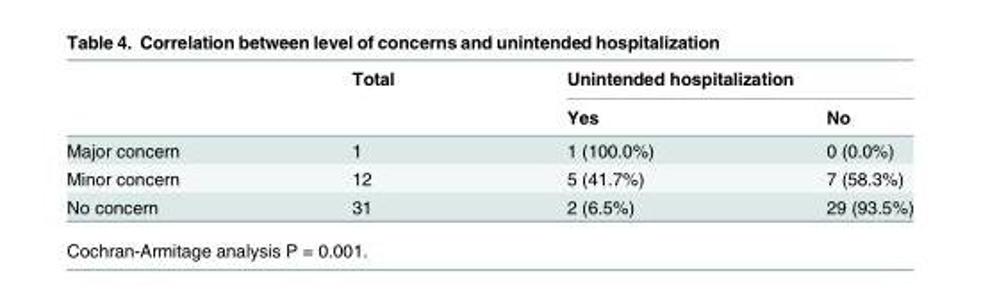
<table><thead><tr><td rowspan="2"></td><td rowspan="2">Total</td><td colspan="2">Unintended hospitalization</td></tr><tr><td>Yes</td><td>No</td></tr></thead><tbody><tr><td>Major concern</td><td>1</td><td>1 (100.0%)</td><td>0 (0.0%)</td></tr><tr><td>Minor concern</td><td>12</td><td>5 (41.7%)</td><td>7 (58.3%)</td></tr><tr><td>No concern</td><td>31</td><td>2 (6.5%)</td><td>29 (93.5%)</td></tr></tbody></table>